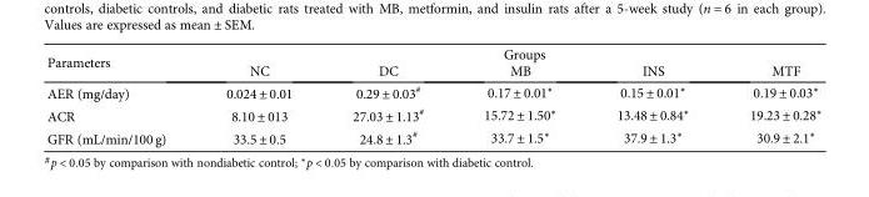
<table><thead><tr><td rowspan="2">Parameters</td><td colspan="5">Groups</td></tr><tr><td>NC</td><td>DC</td><td>MB</td><td>INS</td><td>MTF</td></tr></thead><tbody><tr><td>AER (mg/day)</td><td>0.024 ± 0.01</td><td>0.29 ± 0.03<sup>#</sup></td><td>0.17 ± 0.01∗</td><td>0.15 ± 0.01∗</td><td>0.19 ± 0.03∗</td></tr><tr><td>ACR</td><td>8.10 ± 013</td><td>27.03 ± 1.13<sup>#</sup></td><td>15.72 ± 1.50∗</td><td>13.48 ± 0.84∗</td><td>19.23 ± 0.28∗</td></tr><tr><td>GFR (mL/min/100 g)</td><td>33.5 ± 0.5</td><td>24.8 ± 1.3<sup>#</sup></td><td>33.7 ± 1.5∗</td><td>37.9 ± 1.3∗</td><td>30.9 ± 2.1∗</td></tr></tbody></table>